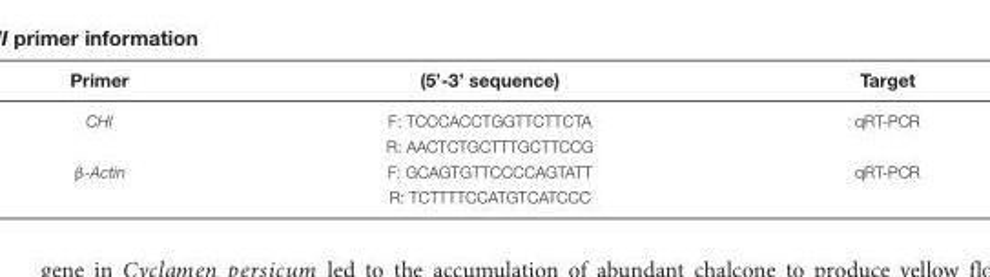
<table><thead><tr><td>Primer</td><td>(5’-3’ sequence)</td><td>Target</td></tr></thead><tbody><tr><td rowspan="2">CHI</td><td>F: TCCCACCTGGTTCTTCTA</td><td>qRT-PCR</td></tr><tr><td>R: AACTCTGCTTTGCTTCCG</td><td></td></tr><tr><td rowspan="2">β-Actin</td><td>F: GCAGTGTTCCCCAGTATT</td><td>qRT-PCR</td></tr><tr><td>R: TCTTTTCCATGTCATCCC</td><td></td></tr></tbody></table>